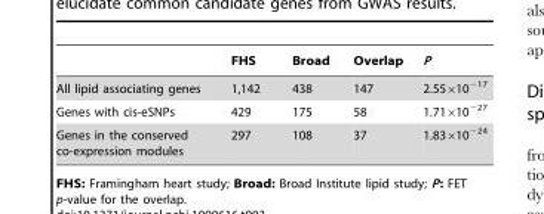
<table><thead><tr><td></td><td>FHS</td><td>Broad</td><td>Overlap</td><td>P</td></tr></thead><tbody><tr><td>All lipid associating genes</td><td>1,142</td><td>438</td><td>147</td><td>2.55×10<sup>−17</sup></td></tr><tr><td>Genes with cis-eSNPs</td><td>429</td><td>175</td><td>58</td><td>1.71×10<sup>−27</sup></td></tr><tr><td>Genes in the conserved co-expression modules</td><td>297</td><td>108</td><td>37</td><td>1.83×10<sup>−24</sup></td></tr></tbody></table>